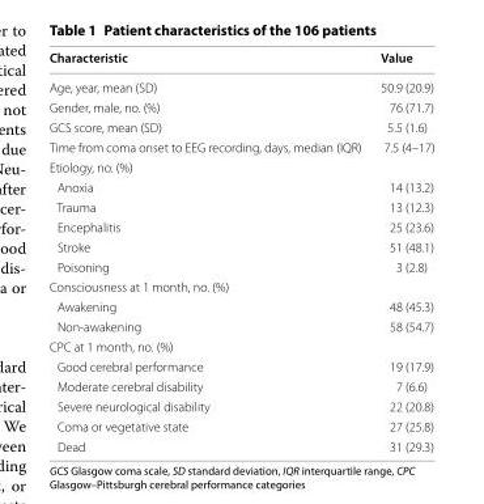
<table><thead><tr><td>Characteristic</td><td>Value</td></tr></thead><tbody><tr><td>Age, year, mean (SD)</td><td>50.9 (20.9)</td></tr><tr><td>Gender, male, no. (%)</td><td>76 (71.7)</td></tr><tr><td>GCS score, mean (SD)</td><td>5.5 (1.6)</td></tr><tr><td>Time from coma onset to EEG recording, days, median (IQR)</td><td>7.5 (4–17)</td></tr><tr><td colspan="2">Etiology, no. (%)</td></tr><tr><td>Anoxia</td><td>14 (13.2)</td></tr><tr><td>Trauma</td><td>13 (12.3)</td></tr><tr><td>Encephalitis</td><td>25 (23.6)</td></tr><tr><td>Stroke</td><td>51 (48.1)</td></tr><tr><td>Poisoning</td><td>3 (2.8)</td></tr><tr><td colspan="2">Consciousness at 1 month, no. (%)</td></tr><tr><td>Awakening</td><td>48 (45.3)</td></tr><tr><td>Non‑awakening</td><td>58 (54.7)</td></tr><tr><td colspan="2">CPC at 1 month, no. (%)</td></tr><tr><td>Good cerebral performance</td><td>19 (17.9)</td></tr><tr><td>Moderate cerebral disability</td><td>7 (6.6)</td></tr><tr><td>Severe neurological disability</td><td>22 (20.8)</td></tr><tr><td>Coma or vegetative state</td><td>27 (25.8)</td></tr><tr><td>Dead</td><td>31 (29.3)</td></tr></tbody></table>